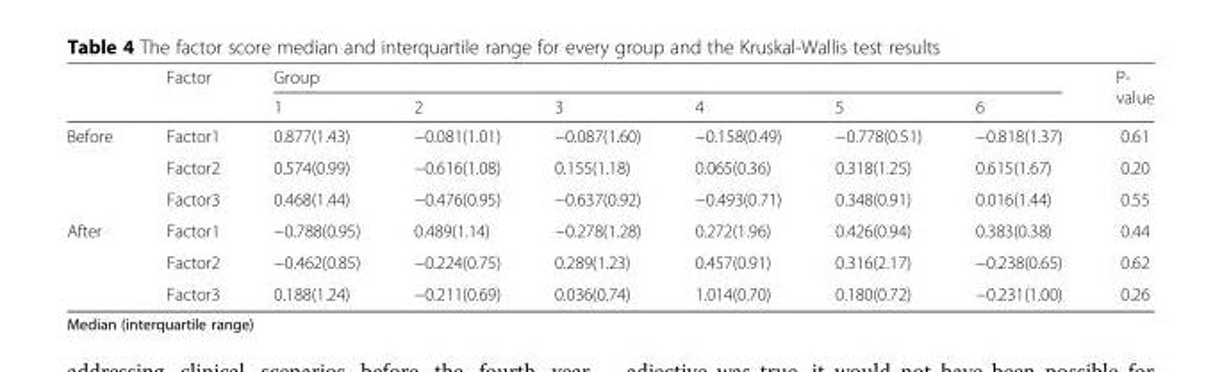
<table><thead><tr><td rowspan="2"></td><td rowspan="2">Factor</td><td colspan="6">Group</td><td rowspan="2">P- value</td></tr><tr><td>1</td><td>2</td><td>3</td><td>4</td><td>5</td><td>6</td></tr></thead><tbody><tr><td rowspan="3">Before</td><td>Factor1</td><td>0.877(1.43)</td><td>−0.081(1.01)</td><td>−0.087(1.60)</td><td>−0.158(0.49)</td><td>−0.778(0.51)</td><td>−0.818(1.37)</td><td>0.61</td></tr><tr><td>Factor2</td><td>0.574(0.99)</td><td>−0.616(1.08)</td><td>0.155(1.18)</td><td>0.065(0.36)</td><td>0.318(1.25)</td><td>0.615(1.67)</td><td>0.20</td></tr><tr><td>Factor3</td><td>0.468(1.44)</td><td>−0.476(0.95)</td><td>−0.637(0.92)</td><td>−0.493(0.71)</td><td>0.348(0.91)</td><td>0.016(1.44)</td><td>0.55</td></tr><tr><td rowspan="3">After</td><td>Factor1</td><td>−0.788(0.95)</td><td>0.489(1.14)</td><td>−0.278(1.28)</td><td>0.272(1.96)</td><td>0.426(0.94)</td><td>0.383(0.38)</td><td>0.44</td></tr><tr><td>Factor2</td><td>−0.462(0.85)</td><td>−0.224(0.75)</td><td>0.289(1.23)</td><td>0.457(0.91)</td><td>0.316(2.17)</td><td>−0.238(0.65)</td><td>0.62</td></tr><tr><td>Factor3</td><td>0.188(1.24)</td><td>−0.211(0.69)</td><td>0.036(0.74)</td><td>1.014(0.70)</td><td>0.180(0.72)</td><td>−0.231(1.00)</td><td>0.26</td></tr></tbody></table>